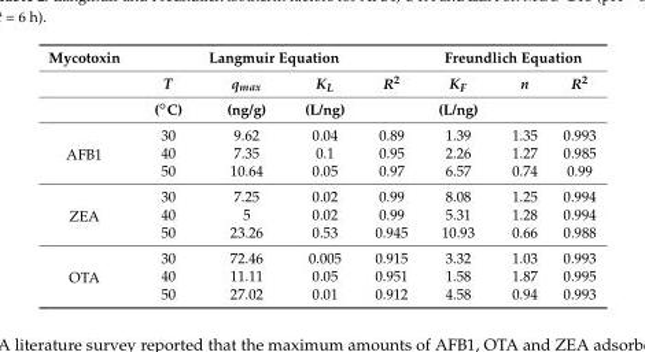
<table><thead><tr><td rowspan="3">Mycotoxin</td><td colspan="4">Langmuir Equation</td><td colspan="3">Freundlich Equation</td></tr><tr><td rowspan="2">T (◦C)</td><td rowspan="2">q<sub>max</sub> (ng/g)</td><td rowspan="2">K<sub>L</sub> (L/ng)</td><td rowspan="2">R<sup>2</sup></td><td rowspan="2">K<sub>F</sub> (L/ng)</td><td rowspan="2">n</td><td rowspan="2">R<sup>2</sup></td></tr><tr></tr></thead><tbody><tr><td rowspan="3">AFB1</td><td>30</td><td>9.62</td><td>0.04</td><td>0.89</td><td>1.39</td><td>1.35</td><td>0.993</td></tr><tr><td>40</td><td>7.35</td><td>0.1</td><td>0.95</td><td>2.26</td><td>1.27</td><td>0.985</td></tr><tr><td>50</td><td>10.64</td><td>0.05</td><td>0.97</td><td>6.57</td><td>0.74</td><td>0.99</td></tr><tr><td rowspan="3">ZEA</td><td>30</td><td>7.25</td><td>0.02</td><td>0.99</td><td>8.08</td><td>1.25</td><td>0.994</td></tr><tr><td>40</td><td>5</td><td>0.02</td><td>0.99</td><td>5.31</td><td>1.28</td><td>0.994</td></tr><tr><td>50</td><td>23.26</td><td>0.53</td><td>0.945</td><td>10.93</td><td>0.66</td><td>0.988</td></tr><tr><td rowspan="3">OTA</td><td>30</td><td>72.46</td><td>0.005</td><td>0.915</td><td>3.32</td><td>1.03</td><td>0.993</td></tr><tr><td>40</td><td>11.11</td><td>0.05</td><td>0.951</td><td>1.58</td><td>1.87</td><td>0.995</td></tr><tr><td>50</td><td>27.02</td><td>0.01</td><td>0.912</td><td>4.58</td><td>0.94</td><td>0.993</td></tr></tbody></table>